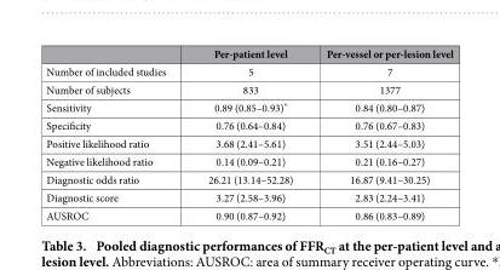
<table><thead><tr><td></td><td>Per-patient level</td><td>Per-vessel or per-lesion level</td></tr></thead><tbody><tr><td>Number of included studies</td><td>5</td><td>7</td></tr><tr><td>Number of subjects</td><td>833</td><td>1377</td></tr><tr><td>Sensitivity</td><td>0.89 (0.85–0.93)*</td><td>0.84 (0.80–0.87)</td></tr><tr><td>Specificity</td><td>0.76 (0.64–0.84)</td><td>0.76 (0.67–0.83)</td></tr><tr><td>Positive likelihood ratio</td><td>3.68 (2.41–5.61)</td><td>3.51 (2.44–5.03)</td></tr><tr><td>Negative likelihood ratio</td><td>0.14 (0.09–0.21)</td><td>0.21 (0.16–0.27)</td></tr><tr><td>Diagnostic odds ratio</td><td>26.21 (13.14–52.28)</td><td>16.87 (9.41–30.25)</td></tr><tr><td>Diagnostic score</td><td>3.27 (2.58–3.96)</td><td>2.83 (2.24–3.41)</td></tr><tr><td>AUSROC</td><td>0.90 (0.87–0.92)</td><td>0.86 (0.83–0.89)</td></tr></tbody></table>